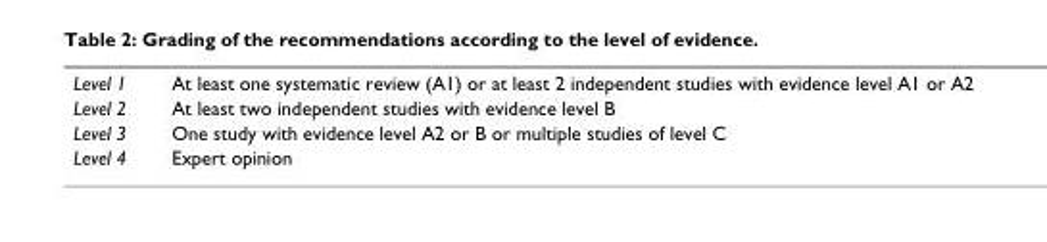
<table><tbody><tr><td>Level 1</td><td>At least one systematic review (A1) or at least 2 independent studies with evidence level A1 or A2</td></tr><tr><td>Level 2</td><td>At least two independent studies with evidence level B</td></tr><tr><td>Level 3</td><td>One study with evidence level A2 or B or multiple studies of level C</td></tr><tr><td>Level 4</td><td>Expert opinion</td></tr></tbody></table>